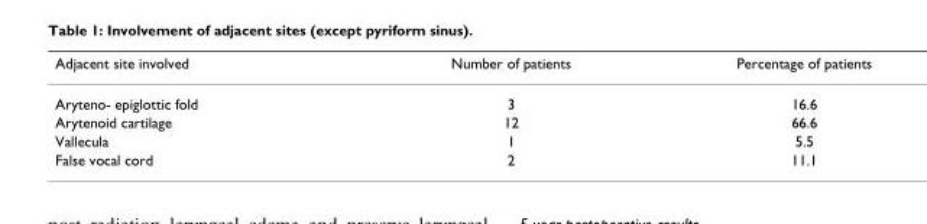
<table><thead><tr><td>Adjacent site involved</td><td>Number of patients</td><td>Percentage of patients</td></tr></thead><tbody><tr><td>Aryteno- epiglottic fold</td><td>3</td><td>16.6</td></tr><tr><td>Arytenoid cartilage</td><td>12</td><td>66.6</td></tr><tr><td>Vallecula</td><td>1</td><td>5.5</td></tr><tr><td>False vocal cord</td><td>2</td><td>11.1</td></tr></tbody></table>